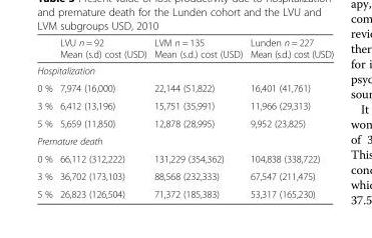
<table><thead><tr><td></td><td>LVU n = 92 Mean (s.d) cost (USD)</td><td>LVM n = 135 Mean (s.d.) cost (USD)</td><td>Lunden n = 227 Mean (s.d.) cost (USD)</td></tr></thead><tbody><tr><td colspan="4">Hospitalization</td></tr><tr><td>0 %</td><td>7,974 (16,000)</td><td>22,144 (51,822)</td><td>16,401 (41,761)</td></tr><tr><td>3 %</td><td>6,412 (13,196)</td><td>15,751 (35,991)</td><td>11,966 (29,313)</td></tr><tr><td>5 %</td><td>5,659 (11,850)</td><td>12,878 (28,995)</td><td>9,952 (23,825)</td></tr><tr><td colspan="4">Premature death</td></tr><tr><td>0 %</td><td>66,112 (312,222)</td><td>131,229 (354,362)</td><td>104,838 (338,722)</td></tr><tr><td>3 %</td><td>36,702 (173,103)</td><td>88,568 (232,333)</td><td>67,547 (211,475)</td></tr><tr><td>5 %</td><td>26,823 (126,504)</td><td>71,372 (185,383)</td><td>53,317 (165,230)</td></tr></tbody></table>